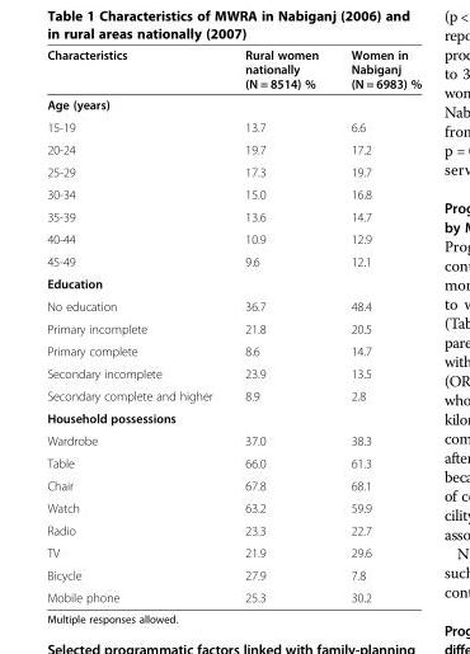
<table><thead><tr><td>Characteristics</td><td>Rural women nationally (N = 8514) %</td><td>Women in Nabiganj (N = 6983) %</td></tr></thead><tbody><tr><td colspan="3">Age (years)</td></tr><tr><td>15-19</td><td>13.7</td><td>6.6</td></tr><tr><td>20-24</td><td>19.7</td><td>17.2</td></tr><tr><td>25-29</td><td>17.3</td><td>19.7</td></tr><tr><td>30-34</td><td>15.0</td><td>16.8</td></tr><tr><td>35-39</td><td>13.6</td><td>14.7</td></tr><tr><td>40-44</td><td>10.9</td><td>12.9</td></tr><tr><td>45-49</td><td>9.6</td><td>12.1</td></tr><tr><td colspan="3">Education</td></tr><tr><td>No education</td><td>36.7</td><td>48.4</td></tr><tr><td>Primary incomplete</td><td>21.8</td><td>20.5</td></tr><tr><td>Primary complete</td><td>8.6</td><td>14.7</td></tr><tr><td>Secondary incomplete</td><td>23.9</td><td>13.5</td></tr><tr><td>Secondary complete and higher</td><td>8.9</td><td>2.8</td></tr><tr><td colspan="3">Household possessions</td></tr><tr><td>Wardrobe</td><td>37.0</td><td>38.3</td></tr><tr><td>Table</td><td>66.0</td><td>61.3</td></tr><tr><td>Chair</td><td>67.8</td><td>68.1</td></tr><tr><td>Watch</td><td>63.2</td><td>59.9</td></tr><tr><td>Radio</td><td>23.3</td><td>22.7</td></tr><tr><td>TV</td><td>21.9</td><td>29.6</td></tr><tr><td>Bicycle</td><td>27.9</td><td>7.8</td></tr><tr><td>Mobile phone</td><td>25.3</td><td>30.2</td></tr></tbody></table>